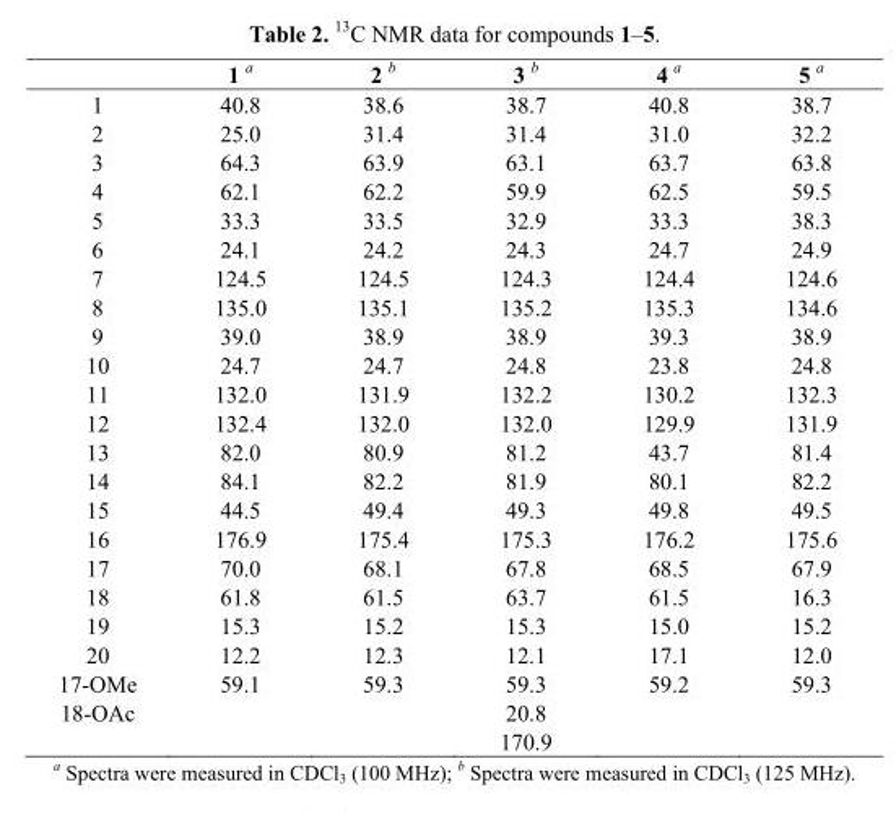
<table><thead><tr><td></td><td>1 <sup>a</sup></td><td>2 <sup>b</sup></td><td>3 <sup>b</sup></td><td>4 <sup>a</sup></td><td>5 <sup>a</sup></td></tr></thead><tbody><tr><td>1</td><td>40.8</td><td>38.6</td><td>38.7</td><td>40.8</td><td>38.7</td></tr><tr><td>2</td><td>25.0</td><td>31.4</td><td>31.4</td><td>31.0</td><td>32.2</td></tr><tr><td>3</td><td>64.3</td><td>63.9</td><td>63.1</td><td>63.7</td><td>63.8</td></tr><tr><td>4</td><td>62.1</td><td>62.2</td><td>59.9</td><td>62.5</td><td>59.5</td></tr><tr><td>5</td><td>33.3</td><td>33.5</td><td>32.9</td><td>33.3</td><td>38.3</td></tr><tr><td>6</td><td>24.1</td><td>24.2</td><td>24.3</td><td>24.7</td><td>24.9</td></tr><tr><td>7</td><td>124.5</td><td>124.5</td><td>124.3</td><td>124.4</td><td>124.6</td></tr><tr><td>8</td><td>135.0</td><td>135.1</td><td>135.2</td><td>135.3</td><td>134.6</td></tr><tr><td>9</td><td>39.0</td><td>38.9</td><td>38.9</td><td>39.3</td><td>38.9</td></tr><tr><td>10</td><td>24.7</td><td>24.7</td><td>24.8</td><td>23.8</td><td>24.8</td></tr><tr><td>11</td><td>132.0</td><td>131.9</td><td>132.2</td><td>130.2</td><td>132.3</td></tr><tr><td>12</td><td>132.4</td><td>132.0</td><td>132.0</td><td>129.9</td><td>131.9</td></tr><tr><td>13</td><td>82.0</td><td>80.9</td><td>81.2</td><td>43.7</td><td>81.4</td></tr><tr><td>14</td><td>84.1</td><td>82.2</td><td>81.9</td><td>80.1</td><td>82.2</td></tr><tr><td>15</td><td>44.5</td><td>49.4</td><td>49.3</td><td>49.8</td><td>49.5</td></tr><tr><td>16</td><td>176.9</td><td>175.4</td><td>175.3</td><td>176.2</td><td>175.6</td></tr><tr><td>17</td><td>70.0</td><td>68.1</td><td>67.8</td><td>68.5</td><td>67.9</td></tr><tr><td>18</td><td>61.8</td><td>61.5</td><td>63.7</td><td>61.5</td><td>16.3</td></tr><tr><td>19</td><td>15.3</td><td>15.2</td><td>15.3</td><td>15.0</td><td>15.2</td></tr><tr><td>20</td><td>12.2</td><td>12.3</td><td>12.1</td><td>17.1</td><td>12.0</td></tr><tr><td>17-OMe</td><td>59.1</td><td>59.3</td><td>59.3</td><td>59.2</td><td>59.3</td></tr><tr><td rowspan="2">18-OAc</td><td></td><td></td><td>20.8</td><td></td><td></td></tr><tr><td></td><td></td><td>170.9</td><td></td><td></td></tr></tbody></table>